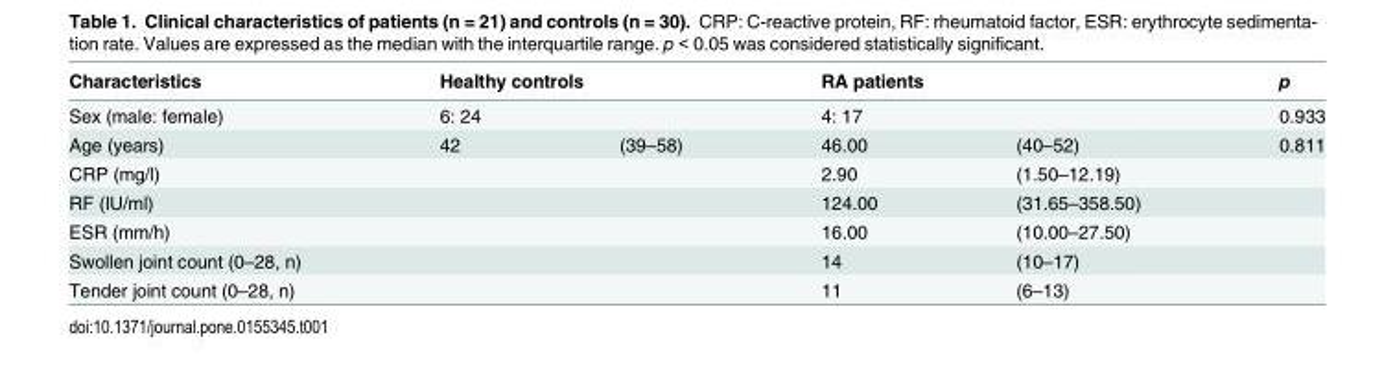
<table><thead><tr><td rowspan="2">Characteristics Sex (male: female)</td><td colspan="2">Healthy controls</td><td colspan="2">RA patients</td><td rowspan="2">p 0.933</td></tr><tr><td>6: 24</td><td></td><td>4: 17</td><td></td></tr></thead><tbody><tr><td>Age (years)</td><td>42</td><td>(39–58)</td><td>46.00</td><td>(40–52)</td><td>0.811</td></tr><tr><td>CRP (mg/l)</td><td></td><td></td><td>2.90</td><td>(1.50–12.19)</td><td></td></tr><tr><td>RF (IU/ml)</td><td></td><td></td><td>124.00</td><td>(31.65–358.50)</td><td></td></tr><tr><td>ESR (mm/h)</td><td></td><td></td><td>16.00</td><td>(10.00–27.50)</td><td></td></tr><tr><td>Swollen joint count (0–28, n)</td><td></td><td></td><td>14</td><td>(10–17)</td><td></td></tr><tr><td>Tender joint count (0–28, n)</td><td></td><td></td><td>11</td><td>(6–13)</td><td></td></tr></tbody></table>